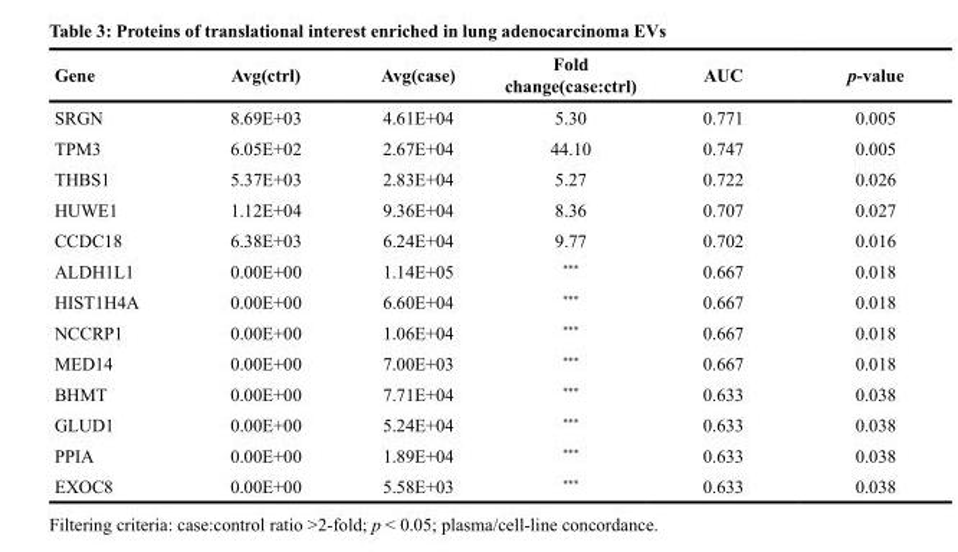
<table><thead><tr><td>Gene</td><td>Avg(ctrl)</td><td>Avg(case)</td><td>Fold change(case:ctrl)</td><td>AUC</td><td>p-value</td></tr></thead><tbody><tr><td>SRGN</td><td>8.69E+03</td><td>4.61E+04</td><td>5.30</td><td>0.771</td><td>0.005</td></tr><tr><td>TPM3</td><td>6.05E+02</td><td>2.67E+04</td><td>44.10</td><td>0.747</td><td>0.005</td></tr><tr><td>THBS1</td><td>5.37E+03</td><td>2.83E+04</td><td>5.27</td><td>0.722</td><td>0.026</td></tr><tr><td>HUWE1</td><td>1.12E+04</td><td>9.36E+04</td><td>8.36</td><td>0.707</td><td>0.027</td></tr><tr><td>CCDC18</td><td>6.38E+03</td><td>6.24E+04</td><td>9.77</td><td>0.702</td><td>0.016</td></tr><tr><td>ALDH1L1</td><td>0.00E+00</td><td>1.14E+05</td><td>***</td><td>0.667</td><td>0.018</td></tr><tr><td>HIST1H4A</td><td>0.00E+00</td><td>6.60E+04</td><td>***</td><td>0.667</td><td>0.018</td></tr><tr><td>NCCRP1</td><td>0.00E+00</td><td>1.06E+04</td><td>***</td><td>0.667</td><td>0.018</td></tr><tr><td>MED14</td><td>0.00E+00</td><td>7.00E+03</td><td>***</td><td>0.667</td><td>0.018</td></tr><tr><td>BHMT</td><td>0.00E+00</td><td>7.71E+04</td><td>***</td><td>0.633</td><td>0.038</td></tr><tr><td>GLUD1</td><td>0.00E+00</td><td>5.24E+04</td><td>***</td><td>0.633</td><td>0.038</td></tr><tr><td>PPIA</td><td>0.00E+00</td><td>1.89E+04</td><td>***</td><td>0.633</td><td>0.038</td></tr><tr><td>EXOC8</td><td>0.00E+00</td><td>5.58E+03</td><td>***</td><td>0.633</td><td>0.038</td></tr></tbody></table>